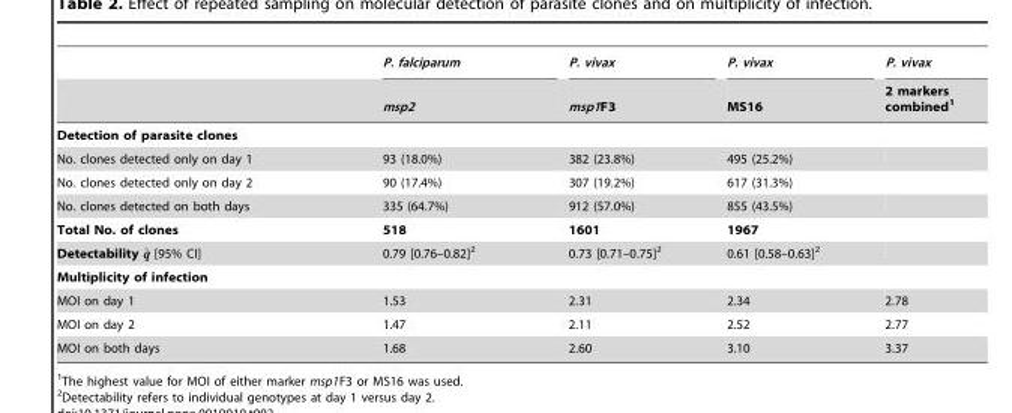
<table><thead><tr><td rowspan="2"></td><td rowspan="2">P. falciparum msp2</td><td rowspan="2">P. vivax msp1F3</td><td rowspan="2">P. vivax MS16</td><td rowspan="2">P. vivax 2 markers combined<sup>1</sup></td></tr><tr></tr></thead><tbody><tr><td colspan="5">Detection of parasite clones</td></tr><tr><td>No. clones detected only on day 1</td><td>93 (18.0%)</td><td>382 (23.8%)</td><td>495 (25.2%)</td><td></td></tr><tr><td>No. clones detected only on day 2</td><td>90 (17.4%)</td><td>307 (19.2%)</td><td>617 (31.3%)</td><td></td></tr><tr><td>No. clones detected on both days</td><td>335 (64.7%)</td><td>912 (57.0%)</td><td>855 (43.5%)</td><td></td></tr><tr><td>Total No. of clones</td><td>518</td><td>1601</td><td>1967</td><td></td></tr><tr><td>Detectability ~q [95% CI]</td><td>0.79 [0.76–0.82]<sup>2</sup></td><td>0.73 [0.71–0.75]<sup>2</sup></td><td>0.61 [0.58–0.63]<sup>2</sup></td><td></td></tr><tr><td colspan="5">Multiplicity of infection</td></tr><tr><td>MOI on day 1</td><td>1.53</td><td>2.31</td><td>2.34</td><td>2.78</td></tr><tr><td>MOI on day 2</td><td>1.47</td><td>2.11</td><td>2.52</td><td>2.77</td></tr><tr><td>MOI on both days</td><td>1.68</td><td>2.60</td><td>3.10</td><td>3.37</td></tr></tbody></table>